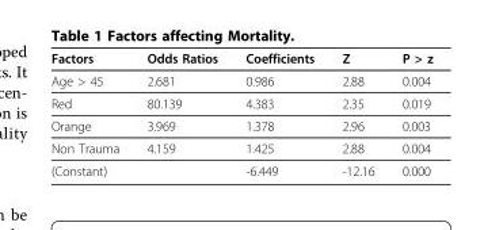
<table><thead><tr><td>Factors</td><td>Odds Ratios</td><td>Coefficients</td><td>Z</td><td>P &gt; z</td></tr></thead><tbody><tr><td>Age &gt; 45</td><td>2.681</td><td>0.986</td><td>2.88</td><td>0.004</td></tr><tr><td>Red</td><td>80.139</td><td>4.383</td><td>2.35</td><td>0.019</td></tr><tr><td>Orange</td><td>3.969</td><td>1.378</td><td>2.96</td><td>0.003</td></tr><tr><td>Non Trauma</td><td>4.159</td><td>1.425</td><td>2.88</td><td>0.004</td></tr><tr><td>(Constant)</td><td></td><td>-6.449</td><td>-12.16</td><td>0.000</td></tr></tbody></table>